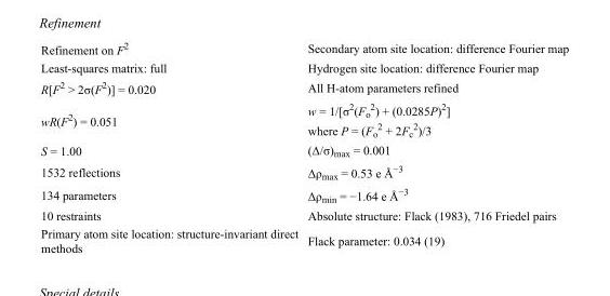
<table><tbody><tr><td>Refinement on F<sup>2</sup></td><td>Secondary atom site location: difference Fourier map</td></tr><tr><td>Least-squares matrix: full</td><td>Hydrogen site location: difference Fourier map</td></tr><tr><td>R[F<sup>2</sup> &gt; 2σ(F<sup>2</sup>)] = 0.020</td><td>All H-atom parameters refined</td></tr><tr><td>wR(F<sup>2</sup>) = 0.051</td><td>w = 1/[σ<sup>2</sup>(F<sub>o</sub> <sup>2</sup>) + (0.0285P)<sup>2</sup>] where P = (F<sub>o</sub> <sup>2</sup> + 2F<sub>c</sub> <sup>2</sup>)/3</td></tr><tr><td>S = 1.00</td><td>(Δ/σ)<sub>max</sub> = 0.001</td></tr><tr><td>1532 reflections</td><td>Δρ<sub>max</sub> = 0.53 e Å<sup>−3</sup></td></tr><tr><td>134 parameters</td><td>Δρ<sub>min</sub> = −1.64 e Å<sup>−3</sup></td></tr><tr><td>10 restraints</td><td>Absolute structure: Flack (1983), 716 Friedel pairs</td></tr><tr><td>Primary atom site location: structure-invariant direct methods</td><td>Flack parameter: 0.034 (19)</td></tr></tbody></table>